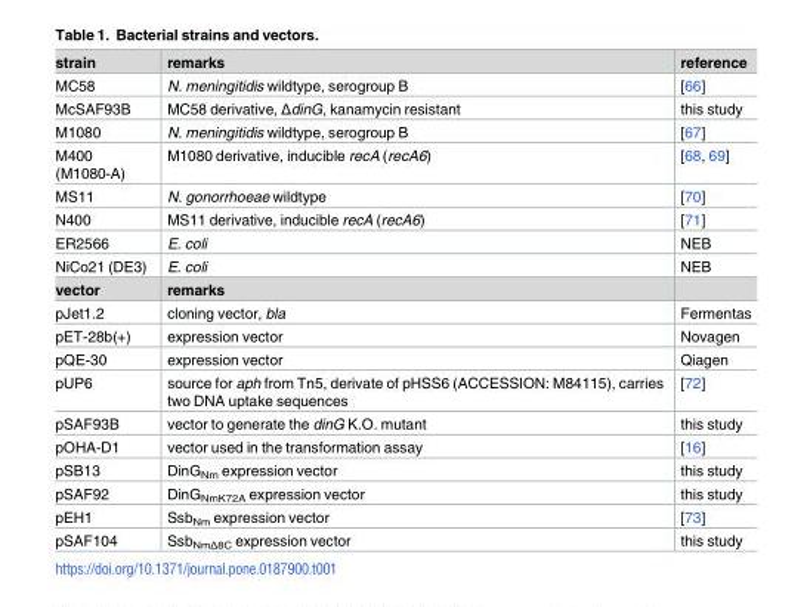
<table><tbody><tr><td>strain</td><td>remarks</td><td>reference</td></tr><tr><td>MC58</td><td>N. meningitidis wildtype, serogroup B</td><td>[66]</td></tr><tr><td>McSAF93B</td><td>MC58 derivative, ΔdinG, kanamycin resistant</td><td>this study</td></tr><tr><td>M1080</td><td>N. meningitidis wildtype, serogroup B</td><td>[67]</td></tr><tr><td>M400 (M1080-A)</td><td>M1080 derivative, inducible recA (recA6)</td><td>[68, 69]</td></tr><tr><td>MS11</td><td>N. gonorrhoeae wildtype</td><td>[70]</td></tr><tr><td>N400</td><td>MS11 derivative, inducible recA (recA6)</td><td>[71]</td></tr><tr><td>ER2566</td><td>E. coli</td><td>NEB</td></tr><tr><td>NiCo21 (DE3)</td><td>E. coli</td><td>NEB</td></tr><tr><td>vector</td><td>remarks</td><td></td></tr><tr><td>pJet1.2</td><td>cloning vector, bla</td><td>Fermentas</td></tr><tr><td>pET-28b(+)</td><td>expression vector</td><td>Novagen</td></tr><tr><td>pQE-30</td><td>expression vector</td><td>Qiagen</td></tr><tr><td>pUP6</td><td>source for aph from Tn5, derivate of pHSS6 (ACCESSION: M84115), carries two DNA uptake sequences</td><td>[72]</td></tr><tr><td>pSAF93B</td><td>vector to generate the dinG K.O. mutant</td><td>this study</td></tr><tr><td>pOHA-D1</td><td>vector used in the transformation assay</td><td>[16]</td></tr><tr><td>pSB13</td><td>DinG<sub>Nm</sub> expression vector</td><td>this study</td></tr><tr><td>pSAF92</td><td>DinG<sub>NmK72A</sub> expression vector</td><td>this study</td></tr><tr><td>pEH1</td><td>Ssb<sub>Nm</sub> expression vector</td><td>[73]</td></tr><tr><td>pSAF104</td><td>Ssb<sub>NmΔ8C</sub> expression vector</td><td>this study</td></tr></tbody></table>